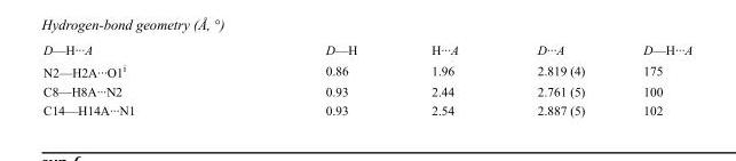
<table><tbody><tr><td>D—H···A</td><td>D—H</td><td>H···A</td><td>D···A</td><td>D—H···A</td></tr><tr><td>N2—H2A···O1<sup>i</sup></td><td>0.86</td><td>1.96</td><td>2.819 (4)</td><td>175</td></tr><tr><td>C8—H8A···N2</td><td>0.93</td><td>2.44</td><td>2.761 (5)</td><td>100</td></tr><tr><td>C14—H14A···N1</td><td>0.93</td><td>2.54</td><td>2.887 (5)</td><td>102</td></tr></tbody></table>